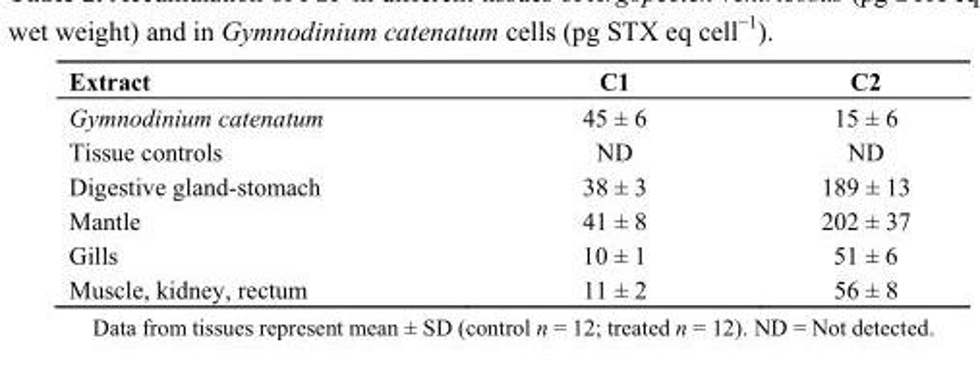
<table><thead><tr><td>Extract</td><td>C1</td><td>C2</td></tr></thead><tbody><tr><td>Gymnodinium catenatum</td><td>45 ± 6</td><td>15 ± 6</td></tr><tr><td>Tissue controls</td><td>ND</td><td>ND</td></tr><tr><td>Digestive gland-stomach</td><td>38 ± 3</td><td>189 ± 13</td></tr><tr><td>Mantle</td><td>41 ± 8</td><td>202 ± 37</td></tr><tr><td>Gills</td><td>10 ± 1</td><td>51 ± 6</td></tr><tr><td>Muscle, kidney, rectum</td><td>11 ± 2</td><td>56 ± 8</td></tr></tbody></table>